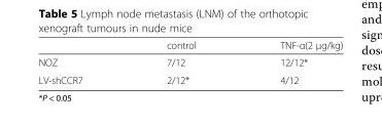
<table><thead><tr><td></td><td>control</td><td>TNF-α(2 μg/kg)</td></tr></thead><tbody><tr><td>NOZ</td><td>7/12</td><td>12/12*</td></tr><tr><td>LV-shCCR7</td><td>2/12*</td><td>4/12</td></tr></tbody></table>